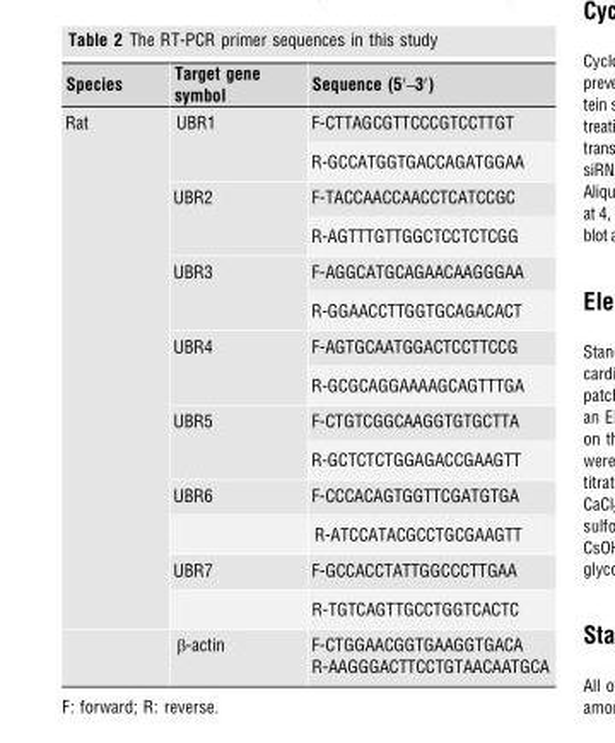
<table><thead><tr><td>Species</td><td>Target gene symbol</td><td>Sequence (5′–3′)</td></tr></thead><tbody><tr><td rowspan="16">Rat</td><td rowspan="2">UBR1</td><td>F-CTTAGCGTTCCCGTCCTTGT</td></tr><tr><td>R-GCCATGGTGACCAGATGGAA</td></tr><tr><td rowspan="2">UBR2</td><td>F-TACCAACCAACCTCATCCGC</td></tr><tr><td>R-AGTTTGTTGGCTCCTCTCGG</td></tr><tr><td rowspan="2">UBR3</td><td>F-AGGCATGCAGAACAAGGGAA</td></tr><tr><td>R-GGAACCTTGGTGCAGACACT</td></tr><tr><td rowspan="2">UBR4</td><td>F-AGTGCAATGGACTCCTTCCG</td></tr><tr><td>R-GCGCAGGAAAAGCAGTTTGA</td></tr><tr><td rowspan="2">UBR5</td><td>F-CTGTCGGCAAGGTGTGCTTA</td></tr><tr><td>R-GCTCTCTGGAGACCGAAGTT</td></tr><tr><td>UBR6</td><td>F-CCCACAGTGGTTCGATGTGA</td></tr><tr><td></td><td>R-ATCCATACGCCTGCGAAGTT</td></tr><tr><td>UBR7</td><td>F-GCCACCTATTGGCCCTTGAA</td></tr><tr><td></td><td>R-TGTCAGTTGCCTGGTCACTC</td></tr><tr><td>β-actin</td><td>F-CTGGAACGGTGAAGGTGACA</td></tr><tr><td></td><td>R-AAGGGACTTCCTGTAACAATGCA</td></tr></tbody></table>